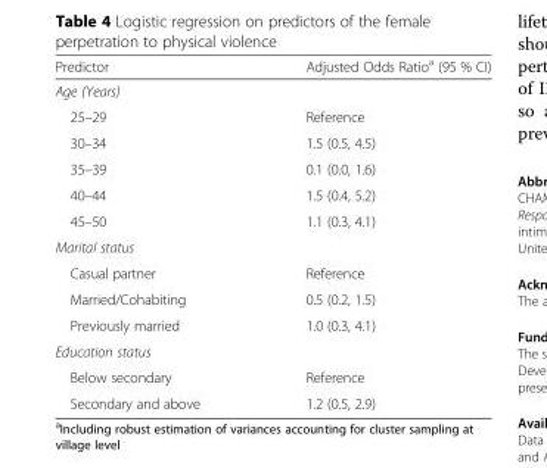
<table><thead><tr><td>Predictor</td><td>Adjusted Odds Ratio<sup>a</sup> (95 % CI)</td></tr></thead><tbody><tr><td colspan="2">Age (Years)</td></tr><tr><td>25–29</td><td>Reference</td></tr><tr><td>30–34</td><td>1.5 (0.5, 4.5)</td></tr><tr><td>35–39</td><td>0.1 (0.0, 1.6)</td></tr><tr><td>40–44</td><td>1.5 (0.4, 5.2)</td></tr><tr><td>45–50</td><td>1.1 (0.3, 4.1)</td></tr><tr><td colspan="2">Marital status</td></tr><tr><td>Casual partner</td><td>Reference</td></tr><tr><td>Married/Cohabiting</td><td>0.5 (0.2, 1.5)</td></tr><tr><td>Previously married</td><td>1.0 (0.3, 4.1)</td></tr><tr><td colspan="2">Education status</td></tr><tr><td>Below secondary</td><td>Reference</td></tr><tr><td>Secondary and above</td><td>1.2 (0.5, 2.9)</td></tr></tbody></table>